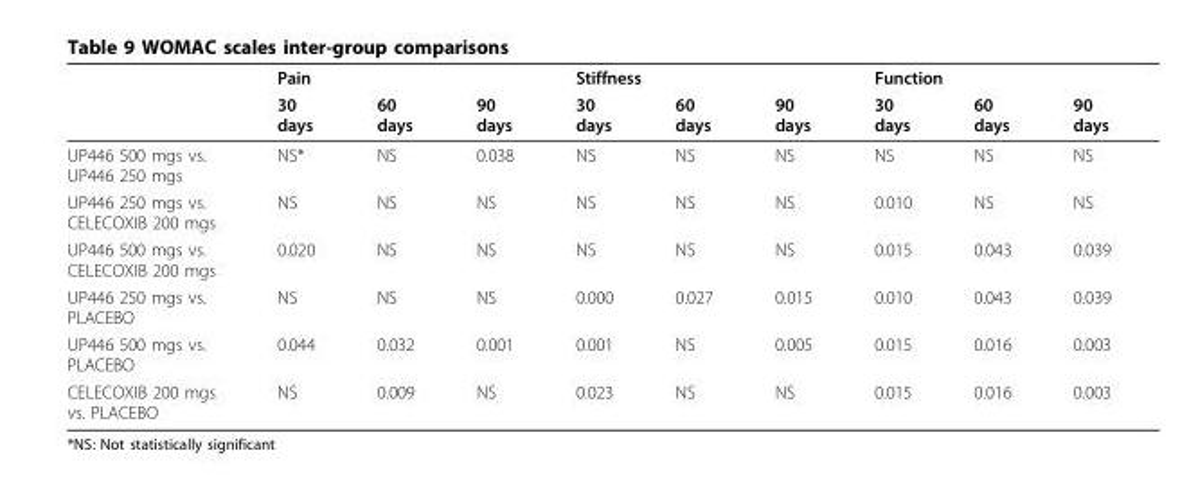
<table><thead><tr><td rowspan="2"></td><td colspan="3">Pain</td><td colspan="3">Stiffness</td><td colspan="3">Function</td></tr><tr><td>30 days</td><td>60 days</td><td>90 days</td><td>30 days</td><td>60 days</td><td>90 days</td><td>30 days</td><td>60 days</td><td>90 days</td></tr></thead><tbody><tr><td>UP446 500 mgs vs. UP446 250 mgs</td><td>NS*</td><td>NS</td><td>0.038</td><td>NS</td><td>NS</td><td>NS</td><td>NS</td><td>NS</td><td>NS</td></tr><tr><td>UP446 250 mgs vs. CELECOXIB 200 mgs</td><td>NS</td><td>NS</td><td>NS</td><td>NS</td><td>NS</td><td>NS</td><td>0.010</td><td>NS</td><td>NS</td></tr><tr><td>UP446 500 mgs vs. CELECOXIB 200 mgs</td><td>0.020</td><td>NS</td><td>NS</td><td>NS</td><td>NS</td><td>NS</td><td>0.015</td><td>0.043</td><td>0.039</td></tr><tr><td>UP446 250 mgs vs. PLACEBO</td><td>NS</td><td>NS</td><td>NS</td><td>0.000</td><td>0.027</td><td>0.015</td><td>0.010</td><td>0.043</td><td>0.039</td></tr><tr><td>UP446 500 mgs vs. PLACEBO</td><td>0.044</td><td>0.032</td><td>0.001</td><td>0.001</td><td>NS</td><td>0.005</td><td>0.015</td><td>0.016</td><td>0.003</td></tr><tr><td>CELECOXIB 200 mgs vs. PLACEBO</td><td>NS</td><td>0.009</td><td>NS</td><td>0.023</td><td>NS</td><td>NS</td><td>0.015</td><td>0.016</td><td>0.003</td></tr></tbody></table>